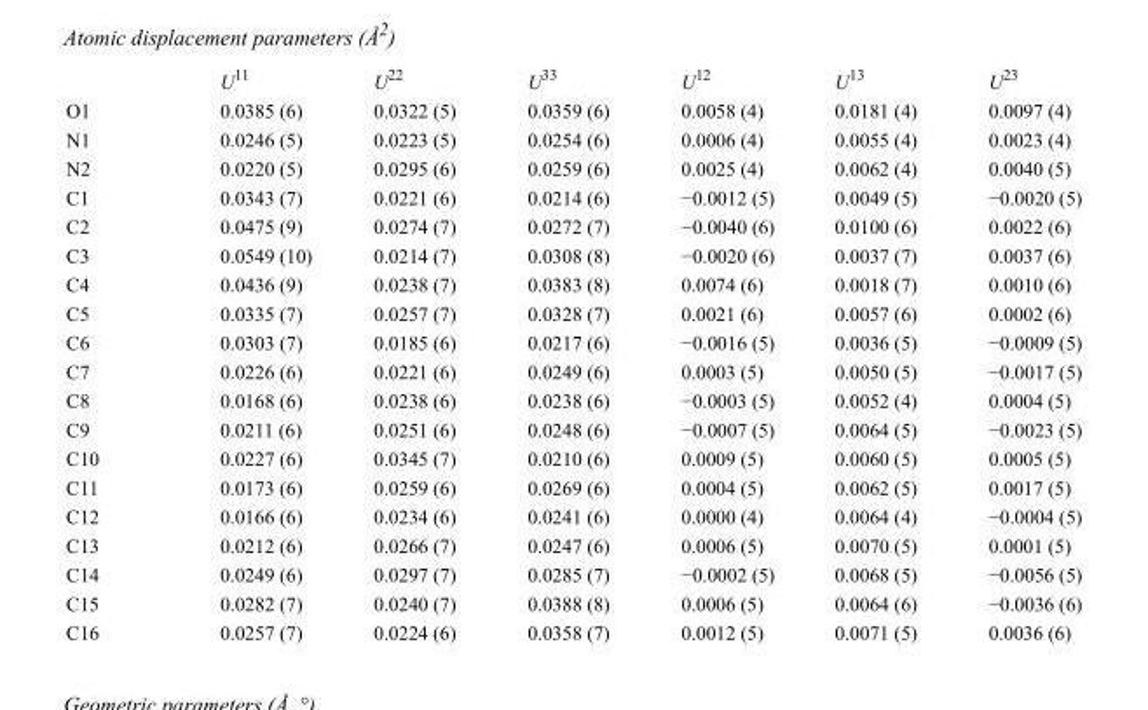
<table><thead><tr><td></td><td>U<sup>11</sup></td><td>U<sup>22</sup></td><td>U<sup>33</sup></td><td>U<sup>12</sup></td><td>U<sup>13</sup></td><td>U<sup>23</sup></td></tr></thead><tbody><tr><td>O1</td><td>0.0385 (6)</td><td>0.0322 (5)</td><td>0.0359 (6)</td><td>0.0058 (4)</td><td>0.0181 (4)</td><td>0.0097 (4)</td></tr><tr><td>N1</td><td>0.0246 (5)</td><td>0.0223 (5)</td><td>0.0254 (6)</td><td>0.0006 (4)</td><td>0.0055 (4)</td><td>0.0023 (4)</td></tr><tr><td>N2</td><td>0.0220 (5)</td><td>0.0295 (6)</td><td>0.0259 (6)</td><td>0.0025 (4)</td><td>0.0062 (4)</td><td>0.0040 (5)</td></tr><tr><td>C1</td><td>0.0343 (7)</td><td>0.0221 (6)</td><td>0.0214 (6)</td><td>−0.0012 (5)</td><td>0.0049 (5)</td><td>−0.0020 (5)</td></tr><tr><td>C2</td><td>0.0475 (9)</td><td>0.0274 (7)</td><td>0.0272 (7)</td><td>−0.0040 (6)</td><td>0.0100 (6)</td><td>0.0022 (6)</td></tr><tr><td>C3</td><td>0.0549 (10)</td><td>0.0214 (7)</td><td>0.0308 (8)</td><td>−0.0020 (6)</td><td>0.0037 (7)</td><td>0.0037 (6)</td></tr><tr><td>C4</td><td>0.0436 (9)</td><td>0.0238 (7)</td><td>0.0383 (8)</td><td>0.0074 (6)</td><td>0.0018 (7)</td><td>0.0010 (6)</td></tr><tr><td>C5</td><td>0.0335 (7)</td><td>0.0257 (7)</td><td>0.0328 (7)</td><td>0.0021 (6)</td><td>0.0057 (6)</td><td>0.0002 (6)</td></tr><tr><td>C6</td><td>0.0303 (7)</td><td>0.0185 (6)</td><td>0.0217 (6)</td><td>−0.0016 (5)</td><td>0.0036 (5)</td><td>−0.0009 (5)</td></tr><tr><td>C7</td><td>0.0226 (6)</td><td>0.0221 (6)</td><td>0.0249 (6)</td><td>0.0003 (5)</td><td>0.0050 (5)</td><td>−0.0017 (5)</td></tr><tr><td>C8</td><td>0.0168 (6)</td><td>0.0238 (6)</td><td>0.0238 (6)</td><td>−0.0003 (5)</td><td>0.0052 (4)</td><td>0.0004 (5)</td></tr><tr><td>C9</td><td>0.0211 (6)</td><td>0.0251 (6)</td><td>0.0248 (6)</td><td>−0.0007 (5)</td><td>0.0064 (5)</td><td>−0.0023 (5)</td></tr><tr><td>C10</td><td>0.0227 (6)</td><td>0.0345 (7)</td><td>0.0210 (6)</td><td>0.0009 (5)</td><td>0.0060 (5)</td><td>0.0005 (5)</td></tr><tr><td>C11</td><td>0.0173 (6)</td><td>0.0259 (6)</td><td>0.0269 (6)</td><td>0.0004 (5)</td><td>0.0062 (5)</td><td>0.0017 (5)</td></tr><tr><td>C12</td><td>0.0166 (6)</td><td>0.0234 (6)</td><td>0.0241 (6)</td><td>0.0000 (4)</td><td>0.0064 (4)</td><td>−0.0004 (5)</td></tr><tr><td>C13</td><td>0.0212 (6)</td><td>0.0266 (7)</td><td>0.0247 (6)</td><td>0.0006 (5)</td><td>0.0070 (5)</td><td>0.0001 (5)</td></tr><tr><td>C14</td><td>0.0249 (6)</td><td>0.0297 (7)</td><td>0.0285 (7)</td><td>−0.0002 (5)</td><td>0.0068 (5)</td><td>−0.0056 (5)</td></tr><tr><td>C15</td><td>0.0282 (7)</td><td>0.0240 (7)</td><td>0.0388 (8)</td><td>0.0006 (5)</td><td>0.0064 (6)</td><td>−0.0036 (6)</td></tr><tr><td>C16</td><td>0.0257 (7)</td><td>0.0224 (6)</td><td>0.0358 (7)</td><td>0.0012 (5)</td><td>0.0071 (5)</td><td>0.0036 (6)</td></tr></tbody></table>